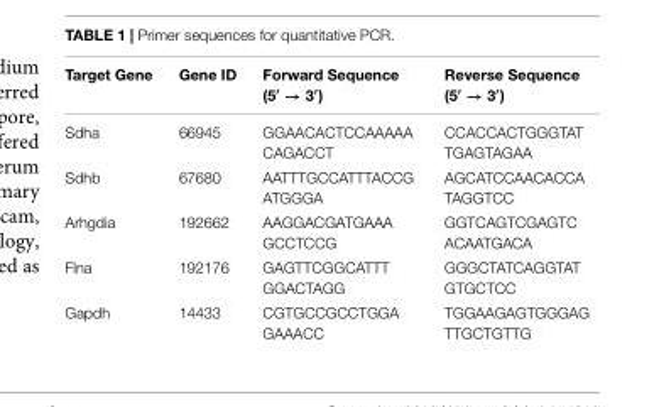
<table><thead><tr><td>Target Gene</td><td>Gene ID</td><td>Forward Sequence (5′ → 3′)</td><td>Reverse Sequence (5′ → 3′)</td></tr></thead><tbody><tr><td>Sdha</td><td>66945</td><td>GGAACACTCCAAAAA CAGACCT</td><td>CCACCACTGGGTAT TGAGTAGAA</td></tr><tr><td>Sdhb</td><td>67680</td><td>AATTTGCCATTTACCG ATGGGA</td><td>AGCATCCAACACCA TAGGTCC</td></tr><tr><td>Arhgdia</td><td>192662</td><td>AAGGACGATGAAA GCCTCCG</td><td>GGTCAGTCGAGTC ACAATGACA</td></tr><tr><td>Flna</td><td>192176</td><td>GAGTTCGGCATTT GGACTAGG</td><td>GGGCTATCAGGTAT GTGCTCC</td></tr><tr><td>Gapdh</td><td>14433</td><td>CGTGCCGCCTGGA GAAACC</td><td>TGGAAGAGTGGGAG TTGCTGTTG</td></tr></tbody></table>